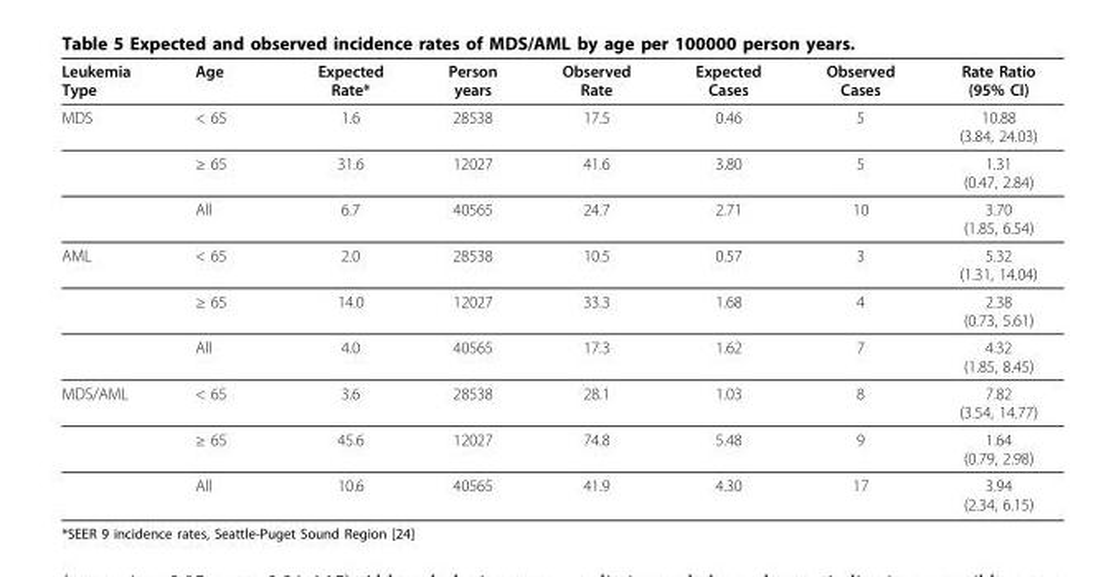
<table><thead><tr><td>Leukemia Type</td><td>Age</td><td>Expected Rate*</td><td>Person years</td><td>Observed Rate</td><td>Expected Cases</td><td>Observed Cases</td><td>Rate Ratio (95% CI)</td></tr></thead><tbody><tr><td rowspan="3">MDS</td><td>&lt; 65</td><td>1.6</td><td>28538</td><td>17.5</td><td>0.46</td><td>5</td><td>10.88 (3.84, 24.03)</td></tr><tr><td>≥ 65</td><td>31.6</td><td>12027</td><td>41.6</td><td>3.80</td><td>5</td><td>1.31 (0.47, 2.84)</td></tr><tr><td>All</td><td>6.7</td><td>40565</td><td>24.7</td><td>2.71</td><td>10</td><td>3.70 (1.85, 6.54)</td></tr><tr><td rowspan="3">AML</td><td>&lt; 65</td><td>2.0</td><td>28538</td><td>10.5</td><td>0.57</td><td>3</td><td>5.32 (1.31, 14.04)</td></tr><tr><td>≥ 65</td><td>14.0</td><td>12027</td><td>33.3</td><td>1.68</td><td>4</td><td>2.38 (0.73, 5.61)</td></tr><tr><td>All</td><td>4.0</td><td>40565</td><td>17.3</td><td>1.62</td><td>7</td><td>4.32 (1.85, 8.45)</td></tr><tr><td rowspan="3">MDS/AML</td><td>&lt; 65</td><td>3.6</td><td>28538</td><td>28.1</td><td>1.03</td><td>8</td><td>7.82 (3.54, 14.77)</td></tr><tr><td>≥ 65</td><td>45.6</td><td>12027</td><td>74.8</td><td>5.48</td><td>9</td><td>1.64 (0.79, 2.98)</td></tr><tr><td>All</td><td>10.6</td><td>40565</td><td>41.9</td><td>4.30</td><td>17</td><td>3.94 (2.34, 6.15)</td></tr></tbody></table>